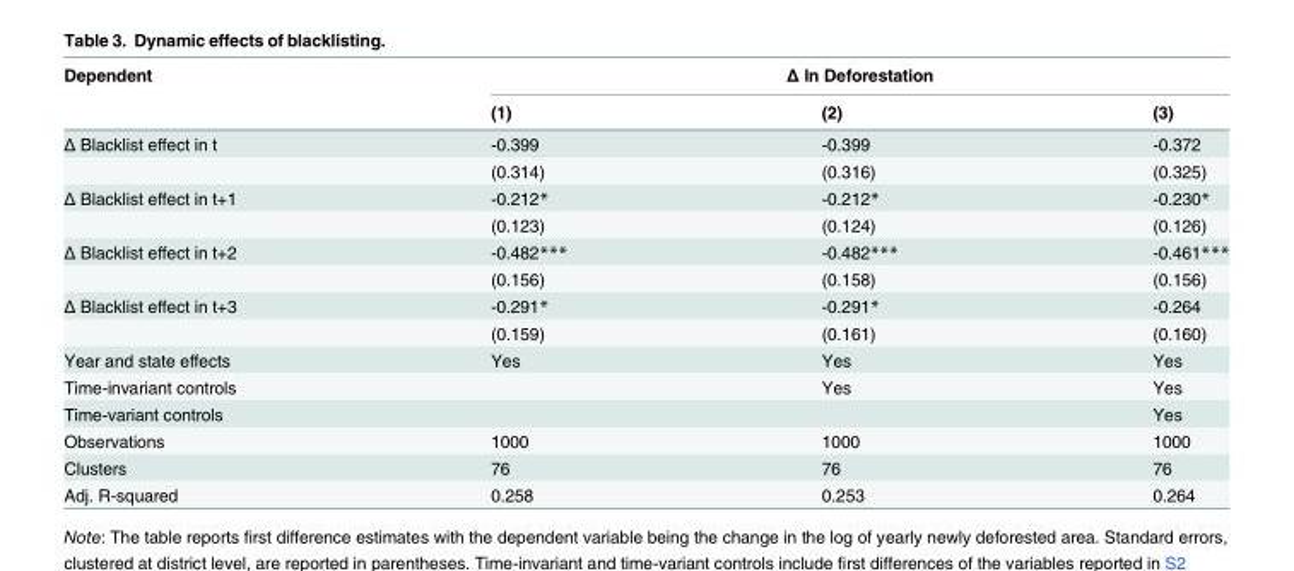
<table><thead><tr><td rowspan="2">Dependent</td><td colspan="3">Δ ln Deforestation</td></tr><tr><td>(1)</td><td>(2)</td><td>(3)</td></tr></thead><tbody><tr><td rowspan="2">Δ Blacklist effect in t</td><td>-0.399</td><td>-0.399</td><td>-0.372</td></tr><tr><td>(0.314)</td><td>(0.316)</td><td>(0.325)</td></tr><tr><td rowspan="2">Δ Blacklist effect in t+1</td><td>-0.212*</td><td>-0.212*</td><td>-0.230*</td></tr><tr><td>(0.123)</td><td>(0.124)</td><td>(0.126)</td></tr><tr><td rowspan="2">Δ Blacklist effect in t+2</td><td>-0.482***</td><td>-0.482***</td><td>-0.461***</td></tr><tr><td>(0.156)</td><td>(0.158)</td><td>(0.156)</td></tr><tr><td rowspan="2">Δ Blacklist effect in t+3</td><td>-0.291*</td><td>-0.291*</td><td>-0.264</td></tr><tr><td>(0.159)</td><td>(0.161)</td><td>(0.160)</td></tr><tr><td>Year and state effects</td><td>Yes</td><td>Yes</td><td>Yes</td></tr><tr><td>Time-invariant controls</td><td></td><td>Yes</td><td>Yes</td></tr><tr><td>Time-variant controls</td><td></td><td></td><td>Yes</td></tr><tr><td>Observations</td><td>1000</td><td>1000</td><td>1000</td></tr><tr><td>Clusters</td><td>76</td><td>76</td><td>76</td></tr><tr><td>Adj. R-squared</td><td>0.258</td><td>0.253</td><td>0.264</td></tr></tbody></table>